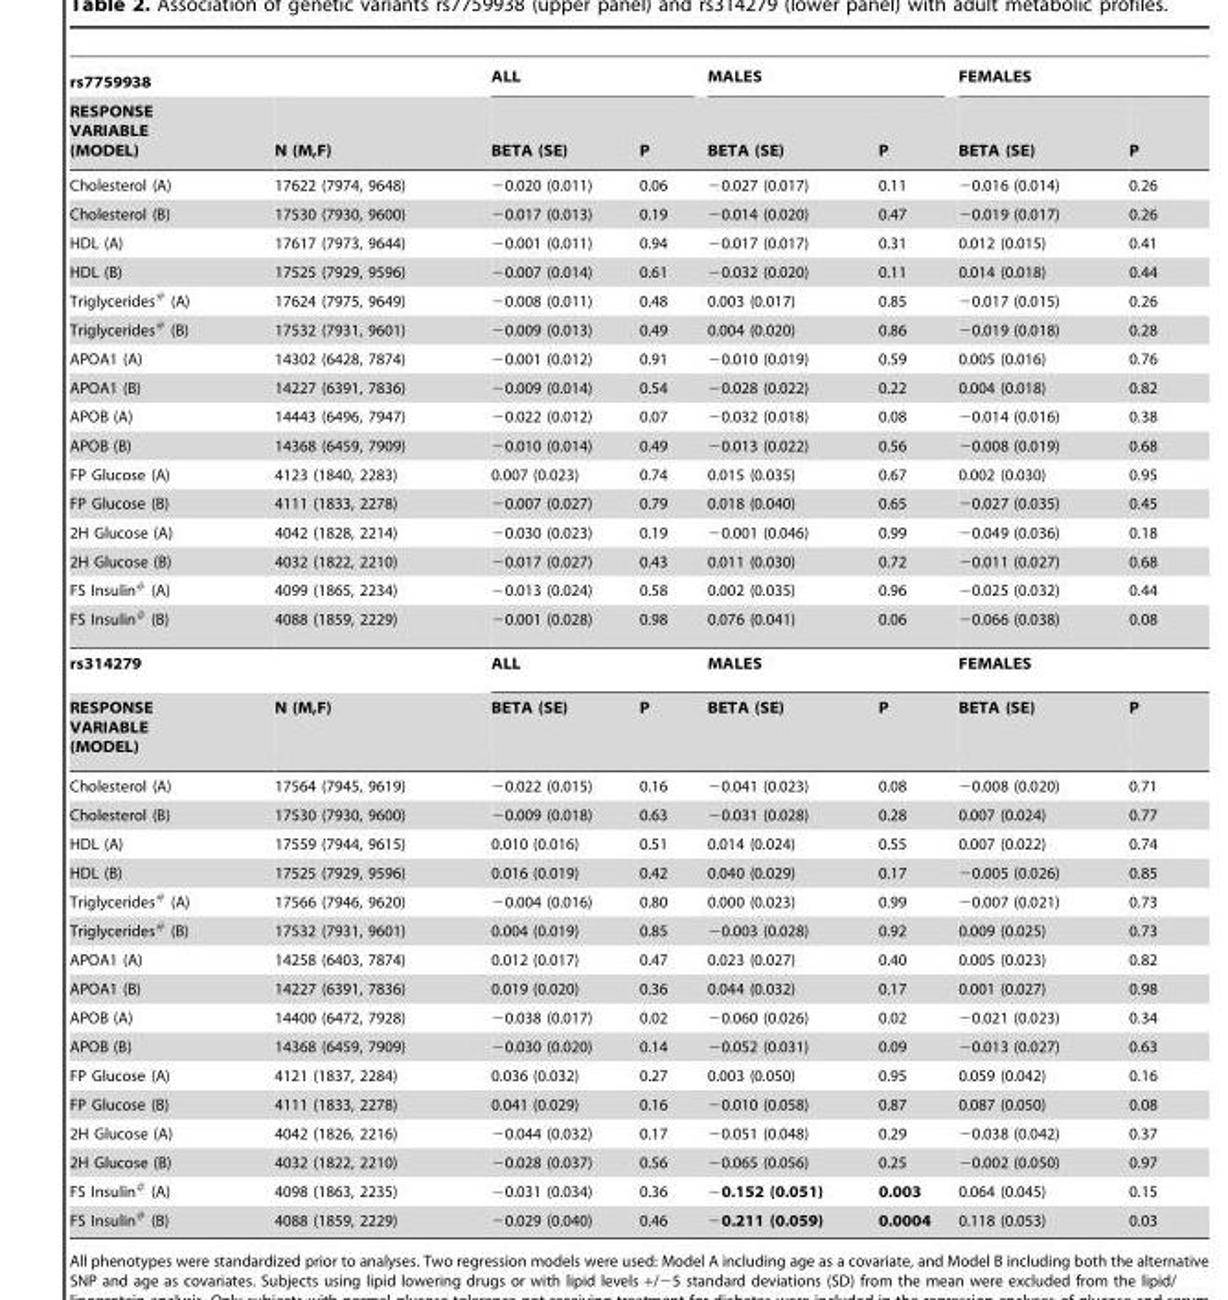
<table><thead><tr><td rowspan="2">rs7759938 RESPONSE VARIABLE (MODEL)</td><td rowspan="2">N (M,F)</td><td colspan="2">ALL</td><td colspan="2">MALES</td><td colspan="2">FEMALES</td></tr><tr><td>BETA (SE)</td><td>P</td><td>BETA (SE)</td><td>P</td><td>BETA (SE)</td><td>P</td></tr></thead><tbody><tr><td>Cholesterol (A)</td><td>17622 (7974, 9648)</td><td>−0.020 (0.011)</td><td>0.06</td><td>−0.027 (0.017)</td><td>0.11</td><td>−0.016 (0.014)</td><td>0.26</td></tr><tr><td>Cholesterol (B)</td><td>17530 (7930, 9600)</td><td>−0.017 (0.013)</td><td>0.19</td><td>−0.014 (0.020)</td><td>0.47</td><td>−0.019 (0.017)</td><td>0.26</td></tr><tr><td>HDL (A)</td><td>17617 (7973, 9644)</td><td>−0.001 (0.011)</td><td>0.94</td><td>−0.017 (0.017)</td><td>0.31</td><td>0.012 (0.015)</td><td>0.41</td></tr><tr><td>HDL (B)</td><td>17525 (7929, 9596)</td><td>−0.007 (0.014)</td><td>0.61</td><td>−0.032 (0.020)</td><td>0.11</td><td>0.014 (0.018)</td><td>0.44</td></tr><tr><td>Triglycerides<sup>#</sup> (A)</td><td>17624 (7975, 9649)</td><td>−0.008 (0.011)</td><td>0.48</td><td>0.003 (0.017)</td><td>0.85</td><td>−0.017 (0.015)</td><td>0.26</td></tr><tr><td>Triglycerides<sup>#</sup> (B)</td><td>17532 (7931, 9601)</td><td>−0.009 (0.013)</td><td>0.49</td><td>0.004 (0.020)</td><td>0.86</td><td>−0.019 (0.018)</td><td>0.28</td></tr><tr><td>APOA1 (A)</td><td>14302 (6428, 7874)</td><td>−0.001 (0.012)</td><td>0.91</td><td>−0.010 (0.019)</td><td>0.59</td><td>0.005 (0.016)</td><td>0.76</td></tr><tr><td>APOA1 (B)</td><td>14227 (6391, 7836)</td><td>−0.009 (0.014)</td><td>0.54</td><td>−0.028 (0.022)</td><td>0.22</td><td>0.004 (0.018)</td><td>0.82</td></tr><tr><td>APOB (A)</td><td>14443 (6496, 7947)</td><td>−0.022 (0.012)</td><td>0.07</td><td>−0.032 (0.018)</td><td>0.08</td><td>−0.014 (0.016)</td><td>0.38</td></tr><tr><td>APOB (B)</td><td>14368 (6459, 7909)</td><td>−0.010 (0.014)</td><td>0.49</td><td>−0.013 (0.022)</td><td>0.56</td><td>−0.008 (0.019)</td><td>0.68</td></tr><tr><td>FP Glucose (A)</td><td>4123 (1840, 2283)</td><td>0.007 (0.023)</td><td>0.74</td><td>0.015 (0.035)</td><td>0.67</td><td>0.002 (0.030)</td><td>0.95</td></tr><tr><td>FP Glucose (B)</td><td>4111 (1833, 2278)</td><td>−0.007 (0.027)</td><td>0.79</td><td>0.018 (0.040)</td><td>0.65</td><td>−0.027 (0.035)</td><td>0.45</td></tr><tr><td>2H Glucose (A)</td><td>4042 (1828, 2214)</td><td>−0.030 (0.023)</td><td>0.19</td><td>−0.001 (0.046)</td><td>0.99</td><td>−0.049 (0.036)</td><td>0.18</td></tr><tr><td>2H Glucose (B)</td><td>4032 (1822, 2210)</td><td>−0.017 (0.027)</td><td>0.43</td><td>0.011 (0.030)</td><td>0.72</td><td>−0.011 (0.027)</td><td>0.68</td></tr><tr><td>FS Insulin<sup>#</sup> (A)</td><td>4099 (1865, 2234)</td><td>−0.013 (0.024)</td><td>0.58</td><td>0.002 (0.035)</td><td>0.96</td><td>−0.025 (0.032)</td><td>0.44</td></tr><tr><td>FS Insulin<sup>#</sup> (B)</td><td>4088 (1859, 2229)</td><td>−0.001 (0.028)</td><td>0.98</td><td>0.076 (0.041)</td><td>0.06</td><td>−0.066 (0.038)</td><td>0.08</td></tr><tr><td>rs314279</td><td></td><td colspan="2">ALL</td><td colspan="2">MALES</td><td colspan="2">FEMALES</td></tr><tr><td>RESPONSE VARIABLE (MODEL)</td><td>N (M,F)</td><td>BETA (SE)</td><td>P</td><td>BETA (SE)</td><td>P</td><td>BETA (SE)</td><td>P</td></tr><tr><td>Cholesterol (A)</td><td>17564 (7945, 9619)</td><td>−0.022 (0.015)</td><td>0.16</td><td>−0.041 (0.023)</td><td>0.08</td><td>−0.008 (0.020)</td><td>0.71</td></tr><tr><td>Cholesterol (B)</td><td>17530 (7930, 9600)</td><td>−0.009 (0.018)</td><td>0.63</td><td>−0.031 (0.028)</td><td>0.28</td><td>0.007 (0.024)</td><td>0.77</td></tr><tr><td>HDL (A)</td><td>17559 (7944, 9615)</td><td>0.010 (0.016)</td><td>0.51</td><td>0.014 (0.024)</td><td>0.55</td><td>0.007 (0.022)</td><td>0.74</td></tr><tr><td>HDL (B)</td><td>17525 (7929, 9596)</td><td>0.016 (0.019)</td><td>0.42</td><td>0.040 (0.029)</td><td>0.17</td><td>−0.005 (0.026)</td><td>0.85</td></tr><tr><td>Triglycerides<sup>#</sup> (A)</td><td>17566 (7946, 9620)</td><td>−0.004 (0.016)</td><td>0.80</td><td>0.000 (0.023)</td><td>0.99</td><td>−0.007 (0.021)</td><td>0.73</td></tr><tr><td>Triglycerides<sup>#</sup> (B)</td><td>17532 (7931, 9601)</td><td>0.004 (0.019)</td><td>0.85</td><td>−0.003 (0.028)</td><td>0.92</td><td>0.009 (0.025)</td><td>0.73</td></tr><tr><td>APOA1 (A)</td><td>14258 (6403, 7874)</td><td>0.012 (0.017)</td><td>0.47</td><td>0.023 (0.027)</td><td>0.40</td><td>0.005 (0.023)</td><td>0.82</td></tr><tr><td>APOA1 (B)</td><td>14227 (6391, 7836)</td><td>0.019 (0.020)</td><td>0.36</td><td>0.044 (0.032)</td><td>0.17</td><td>0.001 (0.027)</td><td>0.98</td></tr><tr><td>APOB (A)</td><td>14400 (6472, 7928)</td><td>−0.038 (0.017)</td><td>0.02</td><td>−0.060 (0.026)</td><td>0.02</td><td>−0.021 (0.023)</td><td>0.34</td></tr><tr><td>APOB (B)</td><td>14368 (6459, 7909)</td><td>−0.030 (0.020)</td><td>0.14</td><td>−0.052 (0.031)</td><td>0.09</td><td>−0.013 (0.027)</td><td>0.63</td></tr><tr><td>FP Glucose (A)</td><td>4121 (1837, 2284)</td><td>0.036 (0.032)</td><td>0.27</td><td>0.003 (0.050)</td><td>0.95</td><td>0.059 (0.042)</td><td>0.16</td></tr><tr><td>FP Glucose (B)</td><td>4111 (1833, 2278)</td><td>0.041 (0.029)</td><td>0.16</td><td>−0.010 (0.058)</td><td>0.87</td><td>0.087 (0.050)</td><td>0.08</td></tr><tr><td>2H Glucose (A)</td><td>4042 (1826, 2216)</td><td>−0.044 (0.032)</td><td>0.17</td><td>−0.051 (0.048)</td><td>0.29</td><td>−0.038 (0.042)</td><td>0.37</td></tr><tr><td>2H Glucose (B)</td><td>4032 (1822, 2210)</td><td>−0.028 (0.037)</td><td>0.56</td><td>−0.065 (0.056)</td><td>0.25</td><td>−0.002 (0.050)</td><td>0.97</td></tr><tr><td>FS Insulin<sup>#</sup> (A)</td><td>4098 (1863, 2235)</td><td>−0.031 (0.034)</td><td>0.36</td><td>−0.152 (0.051)</td><td>0.003</td><td>0.064 (0.045)</td><td>0.15</td></tr><tr><td>FS Insulin<sup>#</sup> (B)</td><td>4088 (1859, 2229)</td><td>−0.029 (0.040)</td><td>0.46</td><td>−0.211 (0.059)</td><td>0.0004</td><td>0.118 (0.053)</td><td>0.03</td></tr></tbody></table>